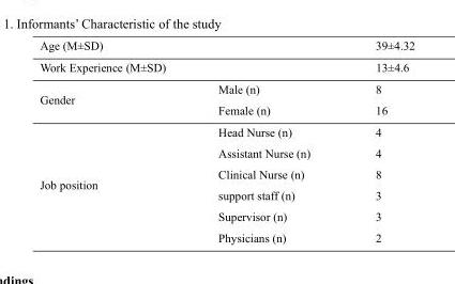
<table><tbody><tr><td colspan="2">Age (M±SD)</td><td>39±4.32</td></tr><tr><td colspan="2">Work Experience (M±SD)</td><td>13±4.6</td></tr><tr><td rowspan="2">Gender</td><td>Male (n)</td><td>8</td></tr><tr><td>Female (n)</td><td>16</td></tr><tr><td rowspan="6">Job position</td><td>Head Nurse (n)</td><td>4</td></tr><tr><td>Assistant Nurse (n)</td><td>4</td></tr><tr><td>Clinical Nurse (n)</td><td>8</td></tr><tr><td>support staff (n)</td><td>3</td></tr><tr><td>Supervisor (n)</td><td>3</td></tr><tr><td>Physicians (n)</td><td>2</td></tr></tbody></table>